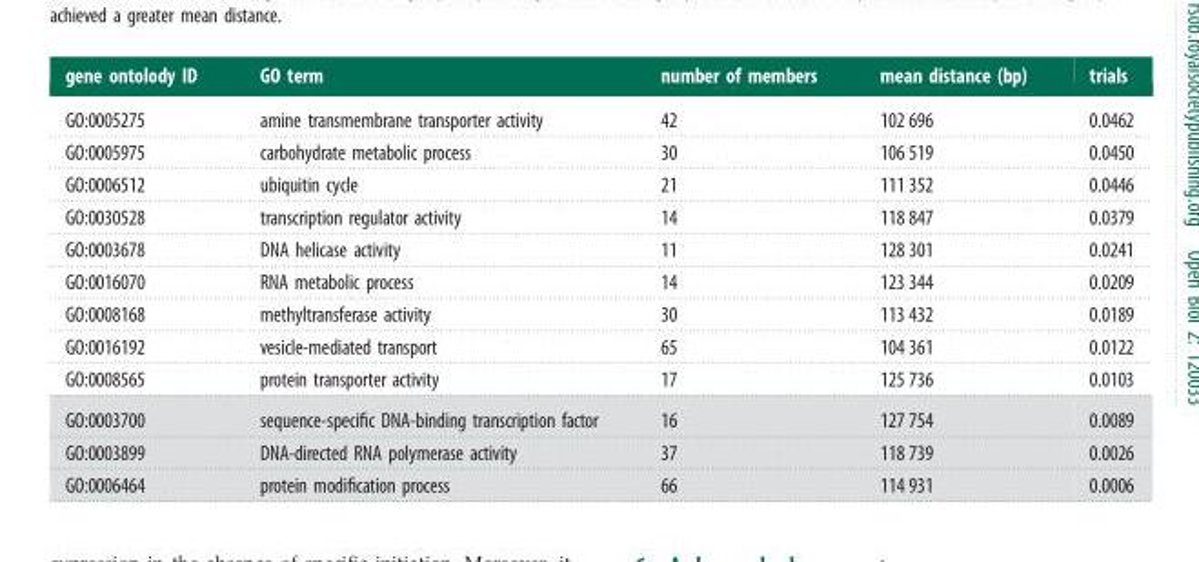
<table><thead><tr><td>gene ontolody ID</td><td>GO term</td><td>number of members</td><td>mean distance (bp)</td><td>trials</td></tr></thead><tbody><tr><td>GO:0005275</td><td>amine transmembrane transporter activity</td><td>42</td><td>102 696</td><td>0.0462</td></tr><tr><td>GO:0005975</td><td>carbohydrate metabolic process</td><td>30</td><td>106 519</td><td>0.0450</td></tr><tr><td>GO:0006512</td><td>ubiquitin cycle</td><td>21</td><td>111 352</td><td>0.0446</td></tr><tr><td>GO:0030528</td><td>transcription regulator activity</td><td>14</td><td>118 847</td><td>0.0379</td></tr><tr><td>GO:0003678</td><td>DNA helicase activity</td><td>11</td><td>128 301</td><td>0.0241</td></tr><tr><td>GO:0016070</td><td>RNA metabolic process</td><td>14</td><td>123 344</td><td>0.0209</td></tr><tr><td>GO:0008168</td><td>methyltransferase activity</td><td>30</td><td>113 432</td><td>0.0189</td></tr><tr><td>GO:0016192</td><td>vesicle-mediated transport</td><td>65</td><td>104 361</td><td>0.0122</td></tr><tr><td>GO:0008565</td><td>protein transporter activity</td><td>17</td><td>125 736</td><td>0.0103</td></tr><tr><td>GO:0003700</td><td>sequence-specific DNA-binding transcription factor</td><td>16</td><td>127 754</td><td>0.0089</td></tr><tr><td>GO:0003899</td><td>DNA-directed RNA polymerase activity</td><td>37</td><td>118 739</td><td>0.0026</td></tr><tr><td>GO:0006464</td><td>protein modification process</td><td>66</td><td>114 931</td><td>0.0006</td></tr></tbody></table>